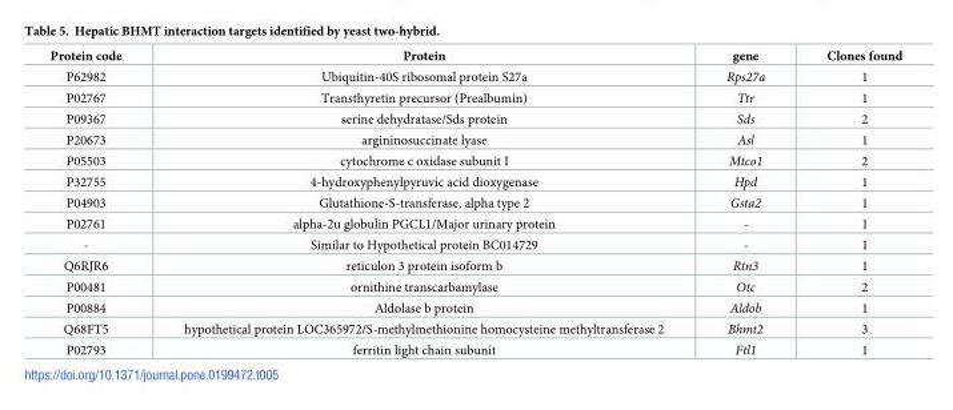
<table><thead><tr><td>Protein code</td><td>Protein</td><td>gene</td><td>Clones found</td></tr></thead><tbody><tr><td>P62982</td><td>Ubiquitin-40S ribosomal protein S27a</td><td>Rps27a</td><td>1</td></tr><tr><td>P02767</td><td>Transthyretin precursor (Prealbumin)</td><td>Ttr</td><td>1</td></tr><tr><td>P09367</td><td>serine dehydratase/Sds protein</td><td>Sds</td><td>2</td></tr><tr><td>P20673</td><td>argininosuccinate lyase</td><td>Asl</td><td>1</td></tr><tr><td>P05503</td><td>cytochrome c oxidase subunit I</td><td>Mtco1</td><td>2</td></tr><tr><td>P32755</td><td>4-hydroxyphenylpyruvic acid dioxygenase</td><td>Hpd</td><td>1</td></tr><tr><td>P04903</td><td>Glutathione-S-transferase, alpha type 2</td><td>Gsta2</td><td>1</td></tr><tr><td>P02761</td><td>alpha-2u globulin PGCL1/Major urinary protein</td><td>-</td><td>1</td></tr><tr><td>-</td><td>Similar to Hypothetical protein BC014729</td><td>-</td><td>1</td></tr><tr><td>Q6RJR6</td><td>reticulon 3 protein isoform b</td><td>Rtn3</td><td>1</td></tr><tr><td>P00481</td><td>ornithine transcarbamylase</td><td>Otc</td><td>2</td></tr><tr><td>P00884</td><td>Aldolase b protein</td><td>Aldob</td><td>1</td></tr><tr><td>Q68FT5</td><td>hypothetical protein LOC365972/S-methylmethionine homocysteine methyltransferase 2</td><td>Bhmt2</td><td>3</td></tr><tr><td>P02793</td><td>ferritin light chain subunit</td><td>Ftl1</td><td>1</td></tr></tbody></table>